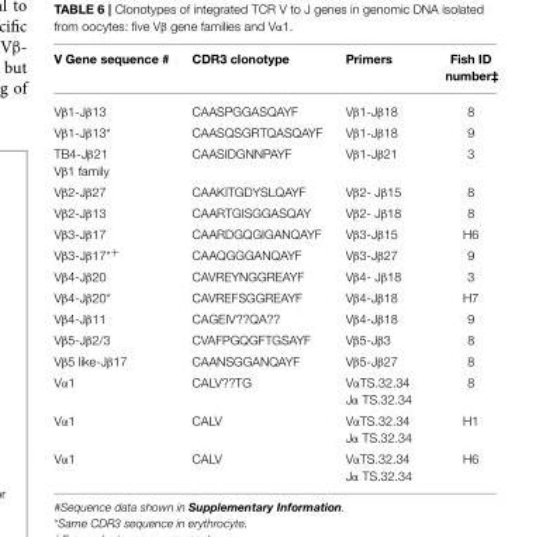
<table><thead><tr><td>V Gene sequence #</td><td>CDR3 clonotype</td><td>Primers</td><td>Fish ID number‡</td></tr></thead><tbody><tr><td>Vβ1-Jβ13</td><td>CAASPGGASQAYF</td><td>Vβ1-Jβ18</td><td>8</td></tr><tr><td>Vβ1-Jβ13*</td><td>CAASQSGRTQASQAYF</td><td>Vβ1-Jβ18</td><td>9</td></tr><tr><td>TB4-Jβ21 Vβ1 family</td><td>CAASIDGNNPAYF</td><td>Vβ1-Jβ21</td><td>3</td></tr><tr><td>Vβ2-Jβ27</td><td>CAAKITGDYSLQAYF</td><td>Vβ2- Jβ15</td><td>8</td></tr><tr><td>Vβ2-Jβ13</td><td>CAARTGISGGASQAY</td><td>Vβ2- Jβ18</td><td>8</td></tr><tr><td>Vβ3-Jβ17</td><td>CAARDGQGIGANQAYF</td><td>Vβ3-Jβ15</td><td>H6</td></tr><tr><td>Vβ3-Jβ17<sup>*+</sup></td><td>CAAQGGGANQAYF</td><td>Vβ3-Jβ27</td><td>9</td></tr><tr><td>Vβ4-Jβ20</td><td>CAVREYNGGREAYF</td><td>Vβ4- Jβ18</td><td>3</td></tr><tr><td>Vβ4-Jβ20*</td><td>CAVREFSGGREAYF</td><td>Vβ4-Jβ18</td><td>H7</td></tr><tr><td>Vβ4-Jβ11</td><td>CAGEIV??QA??</td><td>Vβ4-Jβ18</td><td>9</td></tr><tr><td>Vβ5-Jβ2/3</td><td>CVAFPGQGFTGSAYF</td><td>Vβ5-Jβ3</td><td>8</td></tr><tr><td>Vβ5 like-Jβ17</td><td>CAANSGGANQAYF</td><td>Vβ5-Jβ27</td><td>8</td></tr><tr><td>Vα1</td><td>CALV??TG</td><td>VαTS.32.34 Jα TS.32.34</td><td>8</td></tr><tr><td>Vα1</td><td>CALV</td><td>VαTS.32.34 Jα TS.32.34</td><td>H1</td></tr><tr><td>Vα1</td><td>CALV</td><td>VαTS.32.34 Jα TS.32.34</td><td>H6</td></tr></tbody></table>